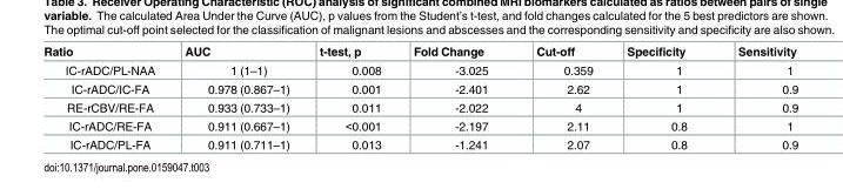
<table><thead><tr><td>Ratio</td><td>AUC</td><td>t-test, p</td><td>Fold Change</td><td>Cut-off</td><td>Specificity</td><td>Sensitivity</td></tr></thead><tbody><tr><td>IC-rADC/PL-NAA</td><td>1 (1–1)</td><td>0.008</td><td>-3.025</td><td>0.359</td><td>1</td><td>1</td></tr><tr><td>IC-rADC/IC-FA</td><td>0.978 (0.867–1)</td><td>0.001</td><td>-2.401</td><td>2.62</td><td>1</td><td>0.9</td></tr><tr><td>RE-rCBV/RE-FA</td><td>0.933 (0.733–1)</td><td>0.011</td><td>-2.022</td><td>4</td><td>1</td><td>0.9</td></tr><tr><td>IC-rADC/RE-FA</td><td>0.911 (0.667–1)</td><td>&lt;0.001</td><td>-2.197</td><td>2.11</td><td>0.8</td><td>1</td></tr><tr><td>IC-rADC/PL-FA</td><td>0.911 (0.711–1)</td><td>0.013</td><td>-1.241</td><td>2.07</td><td>0.8</td><td>0.9</td></tr></tbody></table>